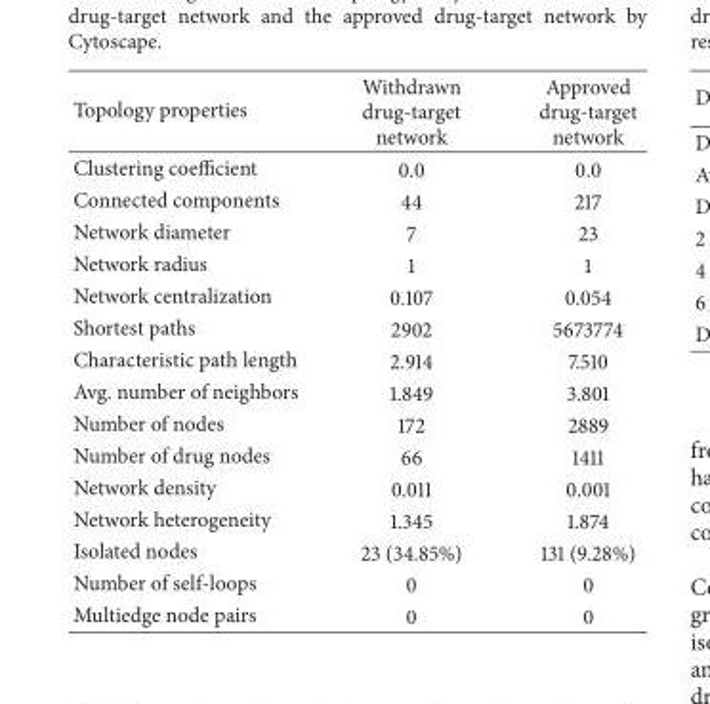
<table><thead><tr><td>Topology properties</td><td>Withdrawn drug-target network</td><td>Approved drug-target network</td></tr></thead><tbody><tr><td>Clustering coefficient</td><td>0.0</td><td>0.0</td></tr><tr><td>Connected components</td><td>44</td><td>217</td></tr><tr><td>Network diameter</td><td>7</td><td>23</td></tr><tr><td>Network radius</td><td>1</td><td>1</td></tr><tr><td>Network centralization</td><td>0.107</td><td>0.054</td></tr><tr><td>Shortest paths</td><td>2902</td><td>5673774</td></tr><tr><td>Characteristic path length</td><td>2.914</td><td>7.510</td></tr><tr><td>Avg. number of neighbors</td><td>1.849</td><td>3.801</td></tr><tr><td>Number of nodes</td><td>172</td><td>2889</td></tr><tr><td>Number of drug nodes</td><td>66</td><td>1411</td></tr><tr><td>Network density</td><td>0.011</td><td>0.001</td></tr><tr><td>Network heterogeneity</td><td>1.345</td><td>1.874</td></tr><tr><td>Isolated nodes</td><td>23 (34.85%)</td><td>131 (9.28%)</td></tr><tr><td>Number of self-loops</td><td>0</td><td>0</td></tr><tr><td>Multiedge node pairs</td><td>0</td><td>0</td></tr></tbody></table>